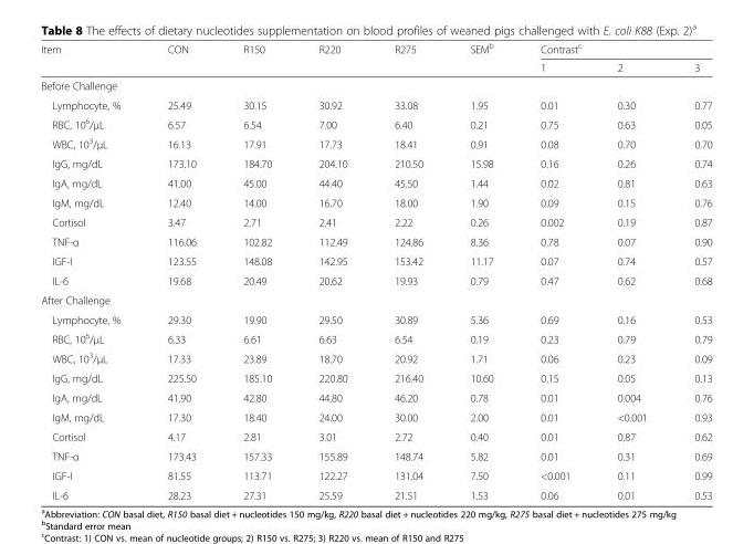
<table><thead><tr><td rowspan="2">Item</td><td rowspan="2">CON</td><td rowspan="2">R150</td><td rowspan="2">R220</td><td rowspan="2">R275</td><td rowspan="2">SEM<sup>b</sup></td><td colspan="3">Contrast<sup>c</sup></td></tr><tr><td>1</td><td>2</td><td>3</td></tr></thead><tbody><tr><td colspan="9">Before Challenge</td></tr><tr><td>Lymphocyte, %</td><td>25.49</td><td>30.15</td><td>30.92</td><td>33.08</td><td>1.95</td><td>0.01</td><td>0.30</td><td>0.77</td></tr><tr><td>RBC, 10<sup>6</sup>/μL</td><td>6.57</td><td>6.54</td><td>7.00</td><td>6.40</td><td>0.21</td><td>0.75</td><td>0.63</td><td>0.05</td></tr><tr><td>WBC, 10<sup>3</sup>/μL</td><td>16.13</td><td>17.91</td><td>17.73</td><td>18.41</td><td>0.91</td><td>0.08</td><td>0.70</td><td>0.70</td></tr><tr><td>IgG, mg/dL</td><td>173.10</td><td>184.70</td><td>204.10</td><td>210.50</td><td>15.98</td><td>0.16</td><td>0.26</td><td>0.74</td></tr><tr><td>IgA, mg/dL</td><td>41.00</td><td>45.00</td><td>44.40</td><td>45.50</td><td>1.44</td><td>0.02</td><td>0.81</td><td>0.63</td></tr><tr><td>IgM, mg/dL</td><td>12.40</td><td>14.00</td><td>16.70</td><td>18.00</td><td>1.90</td><td>0.09</td><td>0.15</td><td>0.76</td></tr><tr><td>Cortisol</td><td>3.47</td><td>2.71</td><td>2.41</td><td>2.22</td><td>0.26</td><td>0.002</td><td>0.19</td><td>0.87</td></tr><tr><td>TNF-α</td><td>116.06</td><td>102.82</td><td>112.49</td><td>124.86</td><td>8.36</td><td>0.78</td><td>0.07</td><td>0.90</td></tr><tr><td>IGF-I</td><td>123.55</td><td>148.08</td><td>142.95</td><td>153.42</td><td>11.17</td><td>0.07</td><td>0.74</td><td>0.57</td></tr><tr><td>IL-6</td><td>19.68</td><td>20.49</td><td>20.62</td><td>19.93</td><td>0.79</td><td>0.47</td><td>0.62</td><td>0.68</td></tr><tr><td colspan="9">After Challenge</td></tr><tr><td>Lymphocyte, %</td><td>29.30</td><td>19.90</td><td>29.50</td><td>30.89</td><td>5.36</td><td>0.69</td><td>0.16</td><td>0.53</td></tr><tr><td>RBC, 10<sup>6</sup>/μL</td><td>6.33</td><td>6.61</td><td>6.63</td><td>6.54</td><td>0.19</td><td>0.23</td><td>0.79</td><td>0.79</td></tr><tr><td>WBC, 10<sup>3</sup>/μL</td><td>17.33</td><td>23.89</td><td>18.70</td><td>20.92</td><td>1.71</td><td>0.06</td><td>0.23</td><td>0.09</td></tr><tr><td>IgG, mg/dL</td><td>225.50</td><td>185.10</td><td>220.80</td><td>216.40</td><td>10.60</td><td>0.15</td><td>0.05</td><td>0.13</td></tr><tr><td>IgA, mg/dL</td><td>41.90</td><td>42.80</td><td>44.80</td><td>46.20</td><td>0.78</td><td>0.01</td><td>0.004</td><td>0.76</td></tr><tr><td>IgM, mg/dL</td><td>17.30</td><td>18.40</td><td>24.00</td><td>30.00</td><td>2.00</td><td>0.01</td><td>&lt;0.001</td><td>0.93</td></tr><tr><td>Cortisol</td><td>4.17</td><td>2.81</td><td>3.01</td><td>2.72</td><td>0.40</td><td>0.01</td><td>0.87</td><td>0.62</td></tr><tr><td>TNF-α</td><td>173.43</td><td>157.33</td><td>155.89</td><td>148.74</td><td>5.82</td><td>0.01</td><td>0.31</td><td>0.69</td></tr><tr><td>IGF-I</td><td>81.55</td><td>113.71</td><td>122.27</td><td>131.04</td><td>7.50</td><td>&lt;0.001</td><td>0.11</td><td>0.99</td></tr><tr><td>IL-6</td><td>28.23</td><td>27.31</td><td>25.59</td><td>21.51</td><td>1.53</td><td>0.06</td><td>0.01</td><td>0.53</td></tr></tbody></table>